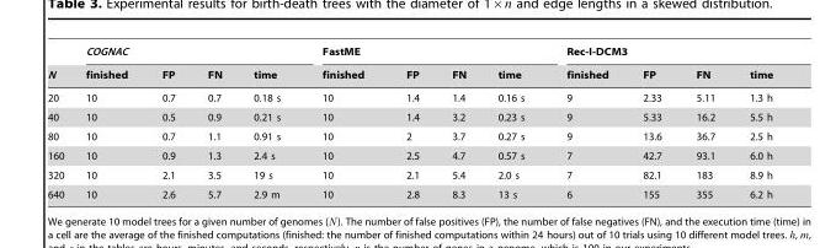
<table><thead><tr><td rowspan="2">N</td><td colspan="4">COGNAC</td><td colspan="4">FastME</td><td colspan="4">Rec-I-DCM3</td></tr><tr><td>finished</td><td>FP</td><td>FN</td><td>time</td><td>finished</td><td>FP</td><td>FN</td><td>time</td><td>finished</td><td>FP</td><td>FN</td><td>time</td></tr></thead><tbody><tr><td>20</td><td>10</td><td>0.7</td><td>0.7</td><td>0.18 s</td><td>10</td><td>1.4</td><td>1.4</td><td>0.16 s</td><td>9</td><td>2.33</td><td>5.11</td><td>1.3 h</td></tr><tr><td>40</td><td>10</td><td>0.5</td><td>0.9</td><td>0.21 s</td><td>10</td><td>1.4</td><td>3.2</td><td>0.23 s</td><td>9</td><td>5.33</td><td>16.2</td><td>5.5 h</td></tr><tr><td>80</td><td>10</td><td>0.7</td><td>1.1</td><td>0.91 s</td><td>10</td><td>2</td><td>3.7</td><td>0.27 s</td><td>9</td><td>13.6</td><td>36.7</td><td>2.5 h</td></tr><tr><td>160</td><td>10</td><td>0.9</td><td>1.3</td><td>2.4 s</td><td>10</td><td>2.5</td><td>4.7</td><td>0.57 s</td><td>7</td><td>42.7</td><td>93.1</td><td>6.0 h</td></tr><tr><td>320</td><td>10</td><td>2.1</td><td>3.5</td><td>19 s</td><td>10</td><td>2.1</td><td>5.4</td><td>2.0 s</td><td>7</td><td>82.1</td><td>183</td><td>8.9 h</td></tr><tr><td>640</td><td>10</td><td>2.6</td><td>5.7</td><td>2.9 m</td><td>10</td><td>2.8</td><td>8.3</td><td>13 s</td><td>6</td><td>155</td><td>355</td><td>6.2 h</td></tr></tbody></table>